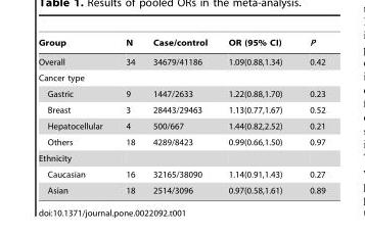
<table><thead><tr><td>Group</td><td>N</td><td>Case/control</td><td>OR (95% CI)</td><td>P</td></tr></thead><tbody><tr><td>Overall</td><td>34</td><td>34679/41186</td><td>1.09(0.88,1.34)</td><td>0.42</td></tr><tr><td colspan="5">Cancer type</td></tr><tr><td>Gastric</td><td>9</td><td>1447/2633</td><td>1.22(0.88,1.70)</td><td>0.23</td></tr><tr><td>Breast</td><td>3</td><td>28443/29463</td><td>1.13(0.77,1.67)</td><td>0.52</td></tr><tr><td>Hepatocellular</td><td>4</td><td>500/667</td><td>1.44(0.82,2.52)</td><td>0.21</td></tr><tr><td>Others</td><td>18</td><td>4289/8423</td><td>0.99(0.66,1.50)</td><td>0.97</td></tr><tr><td colspan="5">Ethnicity</td></tr><tr><td>Caucasian</td><td>16</td><td>32165/38090</td><td>1.14(0.91,1.43)</td><td>0.27</td></tr><tr><td>Asian</td><td>18</td><td>2514/3096</td><td>0.97(0.58,1.61)</td><td>0.89</td></tr></tbody></table>